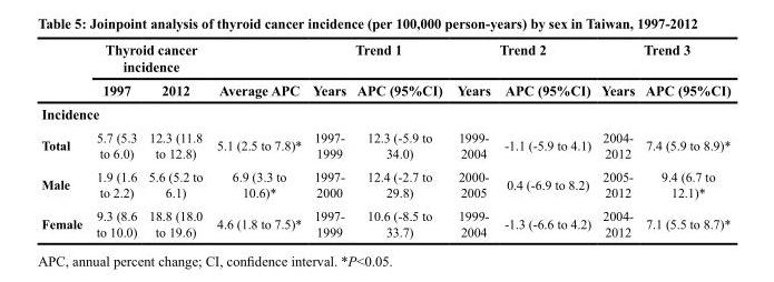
<table><thead><tr><td rowspan="2"></td><td colspan="2">Thyroid cancer incidence</td><td rowspan="2">Average APC</td><td colspan="2">Trend 1</td><td colspan="2">Trend 2</td><td colspan="2">Trend 3</td></tr><tr><td>1997</td><td>2012</td><td>Years</td><td>APC (95%CI)</td><td>Years</td><td>APC (95%CI)</td><td>Years</td><td>APC (95%CI)</td></tr></thead><tbody><tr><td colspan="10">Incidence</td></tr><tr><td>Total</td><td>5.7 (5.3 to 6.0)</td><td>12.3 (11.8 to 12.8)</td><td>5.1 (2.5 to 7.8)*</td><td>1997- 1999</td><td>12.3 (-5.9 to 34.0)</td><td>1999- 2004</td><td>-1.1 (-5.9 to 4.1)</td><td>2004- 2012</td><td>7.4 (5.9 to 8.9)*</td></tr><tr><td>Male</td><td>1.9 (1.6 to 2.2)</td><td>5.6 (5.2 to 6.1)</td><td>6.9 (3.3 to 10.6)*</td><td>1997- 2000</td><td>12.4 (-2.7 to 29.8)</td><td>2000- 2005</td><td>0.4 (-6.9 to 8.2)</td><td>2005- 2012</td><td>9.4 (6.7 to 12.1)*</td></tr><tr><td>Female</td><td>9.3 (8.6 to 10.0)</td><td>18.8 (18.0 to 19.6)</td><td>4.6 (1.8 to 7.5)*</td><td>1997- 1999</td><td>10.6 (-8.5 to 33.7)</td><td>1999- 2004</td><td>-1.3 (-6.6 to 4.2)</td><td>2004- 2012</td><td>7.1 (5.5 to 8.7)*</td></tr></tbody></table>